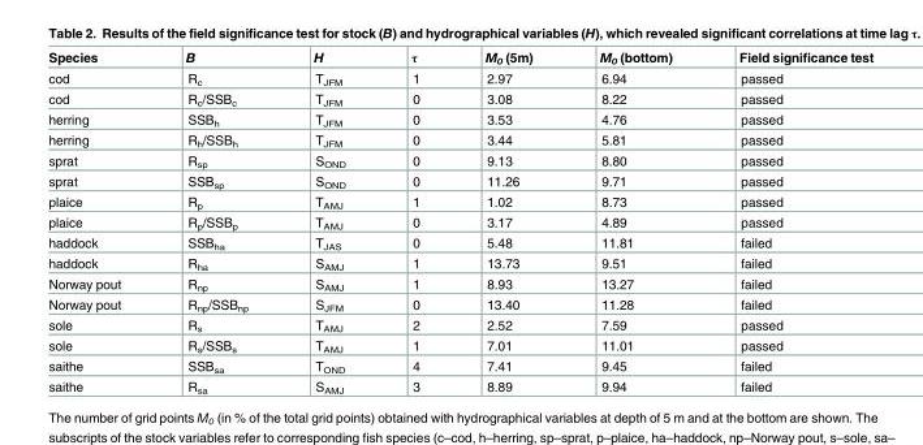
<table><thead><tr><td>Species</td><td>B</td><td>H</td><td>τ</td><td>M<sub>0</sub> (5m)</td><td>M<sub>0</sub> (bottom)</td><td>Field significance test</td></tr></thead><tbody><tr><td>cod</td><td>R<sub>c</sub></td><td>T<sub>JFM</sub></td><td>1</td><td>2.97</td><td>6.94</td><td>passed</td></tr><tr><td>cod</td><td>R<sub>c</sub>/SSB<sub>c</sub></td><td>T<sub>JFM</sub></td><td>0</td><td>3.08</td><td>8.22</td><td>passed</td></tr><tr><td>herring</td><td>SSB<sub>h</sub></td><td>T<sub>JFM</sub></td><td>0</td><td>3.53</td><td>4.76</td><td>passed</td></tr><tr><td>herring</td><td>R<sub>h</sub>/SSB<sub>h</sub></td><td>T<sub>JFM</sub></td><td>0</td><td>3.44</td><td>5.81</td><td>passed</td></tr><tr><td>sprat</td><td>R<sub>sp</sub></td><td>S<sub>OND</sub></td><td>0</td><td>9.13</td><td>8.80</td><td>passed</td></tr><tr><td>sprat</td><td>SSB<sub>sp</sub></td><td>S<sub>OND</sub></td><td>0</td><td>11.26</td><td>9.71</td><td>passed</td></tr><tr><td>plaice</td><td>R<sub>p</sub></td><td>T<sub>AMJ</sub></td><td>1</td><td>1.02</td><td>8.73</td><td>passed</td></tr><tr><td>plaice</td><td>R<sub>p</sub>/SSB<sub>p</sub></td><td>T<sub>AMJ</sub></td><td>0</td><td>3.17</td><td>4.89</td><td>passed</td></tr><tr><td>haddock</td><td>SSB<sub>ha</sub></td><td>T<sub>JAS</sub></td><td>0</td><td>5.48</td><td>11.81</td><td>failed</td></tr><tr><td>haddock</td><td>R<sub>ha</sub></td><td>S<sub>AMJ</sub></td><td>1</td><td>13.73</td><td>9.51</td><td>failed</td></tr><tr><td>Norway pout</td><td>R<sub>np</sub></td><td>S<sub>AMJ</sub></td><td>1</td><td>8.93</td><td>13.27</td><td>failed</td></tr><tr><td>Norway pout</td><td>R<sub>np</sub>/SSB<sub>np</sub></td><td>S<sub>JFM</sub></td><td>0</td><td>13.40</td><td>11.28</td><td>failed</td></tr><tr><td>sole</td><td>R<sub>s</sub></td><td>T<sub>AMJ</sub></td><td>2</td><td>2.52</td><td>7.59</td><td>passed</td></tr><tr><td>sole</td><td>R<sub>s</sub>/SSB<sub>s</sub></td><td>T<sub>AMJ</sub></td><td>1</td><td>7.01</td><td>11.01</td><td>passed</td></tr><tr><td>saithe</td><td>SSB<sub>sa</sub></td><td>T<sub>OND</sub></td><td>4</td><td>7.41</td><td>9.45</td><td>failed</td></tr><tr><td>saithe</td><td>R<sub>sa</sub></td><td>S<sub>AMJ</sub></td><td>3</td><td>8.89</td><td>9.94</td><td>failed</td></tr></tbody></table>